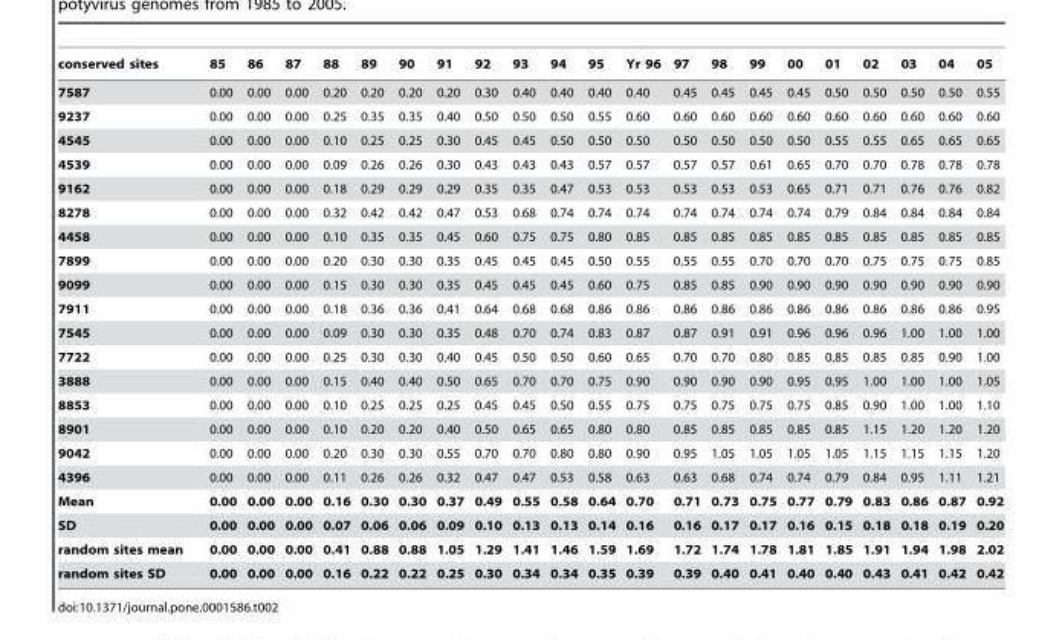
<table><thead><tr><td>conserved sites</td><td>85</td><td>86</td><td>87</td><td>88</td><td>89</td><td>90</td><td>91</td><td>92</td><td>93</td><td>94</td><td>95</td><td>Yr 96</td><td>97</td><td>98</td><td>99</td><td>00</td><td>01</td><td>02</td><td>03</td><td>04</td><td>05</td></tr></thead><tbody><tr><td>7587</td><td>0.00</td><td>0.00</td><td>0.00</td><td>0.20</td><td>0.20</td><td>0.20</td><td>0.20</td><td>0.30</td><td>0.40</td><td>0.40</td><td>0.40</td><td>0.40</td><td>0.45</td><td>0.45</td><td>0.45</td><td>0.45</td><td>0.50</td><td>0.50</td><td>0.50</td><td>0.50</td><td>0.55</td></tr><tr><td>9237</td><td>0.00</td><td>0.00</td><td>0.00</td><td>0.25</td><td>0.35</td><td>0.35</td><td>0.40</td><td>0.50</td><td>0.50</td><td>0.50</td><td>0.55</td><td>0.60</td><td>0.60</td><td>0.60</td><td>0.60</td><td>0.60</td><td>0.60</td><td>0.60</td><td>0.60</td><td>0.60</td><td>0.60</td></tr><tr><td>4545</td><td>0.00</td><td>0.00</td><td>0.00</td><td>0.10</td><td>0.25</td><td>0.25</td><td>0.30</td><td>0.45</td><td>0.45</td><td>0.50</td><td>0.50</td><td>0.50</td><td>0.50</td><td>0.50</td><td>0.50</td><td>0.50</td><td>0.55</td><td>0.55</td><td>0.65</td><td>0.65</td><td>0.65</td></tr><tr><td>4539</td><td>0.00</td><td>0.00</td><td>0.00</td><td>0.09</td><td>0.26</td><td>0.26</td><td>0.30</td><td>0.43</td><td>0.43</td><td>0.43</td><td>0.57</td><td>0.57</td><td>0.57</td><td>0.57</td><td>0.61</td><td>0.65</td><td>0.70</td><td>0.70</td><td>0.78</td><td>0.78</td><td>0.78</td></tr><tr><td>9162</td><td>0.00</td><td>0.00</td><td>0.00</td><td>0.18</td><td>0.29</td><td>0.29</td><td>0.29</td><td>0.35</td><td>0.35</td><td>0.47</td><td>0.53</td><td>0.53</td><td>0.53</td><td>0.53</td><td>0.53</td><td>0.65</td><td>0.71</td><td>0.71</td><td>0.76</td><td>0.76</td><td>0.82</td></tr><tr><td>8278</td><td>0.00</td><td>0.00</td><td>0.00</td><td>0.32</td><td>0.42</td><td>0.42</td><td>0.47</td><td>0.53</td><td>0.68</td><td>0.74</td><td>0.74</td><td>0.74</td><td>0.74</td><td>0.74</td><td>0.74</td><td>0.74</td><td>0.79</td><td>0.84</td><td>0.84</td><td>0.84</td><td>0.84</td></tr><tr><td>4458</td><td>0.00</td><td>0.00</td><td>0.00</td><td>0.10</td><td>0.35</td><td>0.35</td><td>0.45</td><td>0.60</td><td>0.75</td><td>0.75</td><td>0.80</td><td>0.85</td><td>0.85</td><td>0.85</td><td>0.85</td><td>0.85</td><td>0.85</td><td>0.85</td><td>0.85</td><td>0.85</td><td>0.85</td></tr><tr><td>7899</td><td>0.00</td><td>0.00</td><td>0.00</td><td>0.20</td><td>0.30</td><td>0.30</td><td>0.35</td><td>0.45</td><td>0.45</td><td>0.45</td><td>0.50</td><td>0.55</td><td>0.55</td><td>0.55</td><td>0.70</td><td>0.70</td><td>0.70</td><td>0.75</td><td>0.75</td><td>0.75</td><td>0.85</td></tr><tr><td>9099</td><td>0.00</td><td>0.00</td><td>0.00</td><td>0.15</td><td>0.30</td><td>0.30</td><td>0.35</td><td>0.45</td><td>0.45</td><td>0.45</td><td>0.60</td><td>0.75</td><td>0.85</td><td>0.85</td><td>0.90</td><td>0.90</td><td>0.90</td><td>0.90</td><td>0.90</td><td>0.90</td><td>0.90</td></tr><tr><td>7911</td><td>0.00</td><td>0.00</td><td>0.00</td><td>0.18</td><td>0.36</td><td>0.36</td><td>0.41</td><td>0.64</td><td>0.68</td><td>0.68</td><td>0.86</td><td>0.86</td><td>0.86</td><td>0.86</td><td>0.86</td><td>0.86</td><td>0.86</td><td>0.86</td><td>0.86</td><td>0.86</td><td>0.95</td></tr><tr><td>7545</td><td>0.00</td><td>0.00</td><td>0.00</td><td>0.09</td><td>0.30</td><td>0.30</td><td>0.35</td><td>0.48</td><td>0.70</td><td>0.74</td><td>0.83</td><td>0.87</td><td>0.87</td><td>0.91</td><td>0.91</td><td>0.96</td><td>0.96</td><td>0.96</td><td>1.00</td><td>1.00</td><td>1.00</td></tr><tr><td>7722</td><td>0.00</td><td>0.00</td><td>0.00</td><td>0.25</td><td>0.30</td><td>0.30</td><td>0.40</td><td>0.45</td><td>0.50</td><td>0.50</td><td>0.60</td><td>0.65</td><td>0.70</td><td>0.70</td><td>0.80</td><td>0.85</td><td>0.85</td><td>0.85</td><td>0.85</td><td>0.90</td><td>1.00</td></tr><tr><td>3888</td><td>0.00</td><td>0.00</td><td>0.00</td><td>0.15</td><td>0.40</td><td>0.40</td><td>0.50</td><td>0.65</td><td>0.70</td><td>0.70</td><td>0.75</td><td>0.90</td><td>0.90</td><td>0.90</td><td>0.90</td><td>0.95</td><td>0.95</td><td>1.00</td><td>1.00</td><td>1.00</td><td>1.05</td></tr><tr><td>8853</td><td>0.00</td><td>0.00</td><td>0.00</td><td>0.10</td><td>0.25</td><td>0.25</td><td>0.25</td><td>0.45</td><td>0.45</td><td>0.50</td><td>0.55</td><td>0.75</td><td>0.75</td><td>0.75</td><td>0.75</td><td>0.75</td><td>0.85</td><td>0.90</td><td>1.00</td><td>1.00</td><td>1.10</td></tr><tr><td>8901</td><td>0.00</td><td>0.00</td><td>0.00</td><td>0.10</td><td>0.20</td><td>0.20</td><td>0.40</td><td>0.50</td><td>0.65</td><td>0.65</td><td>0.80</td><td>0.80</td><td>0.85</td><td>0.85</td><td>0.85</td><td>0.85</td><td>0.85</td><td>1.15</td><td>1.20</td><td>1.20</td><td>1.20</td></tr><tr><td>9042</td><td>0.00</td><td>0.00</td><td>0.00</td><td>0.20</td><td>0.30</td><td>0.30</td><td>0.55</td><td>0.70</td><td>0.70</td><td>0.80</td><td>0.80</td><td>0.90</td><td>0.95</td><td>1.05</td><td>1.05</td><td>1.05</td><td>1.05</td><td>1.15</td><td>1.15</td><td>1.15</td><td>1.20</td></tr><tr><td>4396</td><td>0.00</td><td>0.00</td><td>0.00</td><td>0.11</td><td>0.26</td><td>0.26</td><td>0.32</td><td>0.47</td><td>0.47</td><td>0.53</td><td>0.58</td><td>0.63</td><td>0.63</td><td>0.68</td><td>0.74</td><td>0.74</td><td>0.79</td><td>0.84</td><td>0.95</td><td>1.11</td><td>1.21</td></tr><tr><td>Mean</td><td>0.00</td><td>0.00</td><td>0.00</td><td>0.16</td><td>0.30</td><td>0.30</td><td>0.37</td><td>0.49</td><td>0.55</td><td>0.58</td><td>0.64</td><td>0.70</td><td>0.71</td><td>0.73</td><td>0.75</td><td>0.77</td><td>0.79</td><td>0.83</td><td>0.86</td><td>0.87</td><td>0.92</td></tr><tr><td>SD</td><td>0.00</td><td>0.00</td><td>0.00</td><td>0.07</td><td>0.06</td><td>0.06</td><td>0.09</td><td>0.10</td><td>0.13</td><td>0.13</td><td>0.14</td><td>0.16</td><td>0.16</td><td>0.17</td><td>0.17</td><td>0.16</td><td>0.15</td><td>0.18</td><td>0.18</td><td>0.19</td><td>0.20</td></tr><tr><td>random sites mean</td><td>0.00</td><td>0.00</td><td>0.00</td><td>0.41</td><td>0.88</td><td>0.88</td><td>1.05</td><td>1.29</td><td>1.41</td><td>1.46</td><td>1.59</td><td>1.69</td><td>1.72</td><td>1.74</td><td>1.78</td><td>1.81</td><td>1.85</td><td>1.91</td><td>1.94</td><td>1.98</td><td>2.02</td></tr><tr><td>random sites SD</td><td>0.00</td><td>0.00</td><td>0.00</td><td>0.16</td><td>0.22</td><td>0.22</td><td>0.25</td><td>0.30</td><td>0.34</td><td>0.34</td><td>0.35</td><td>0.39</td><td>0.39</td><td>0.40</td><td>0.41</td><td>0.40</td><td>0.40</td><td>0.43</td><td>0.41</td><td>0.42</td><td>0.42</td></tr></tbody></table>